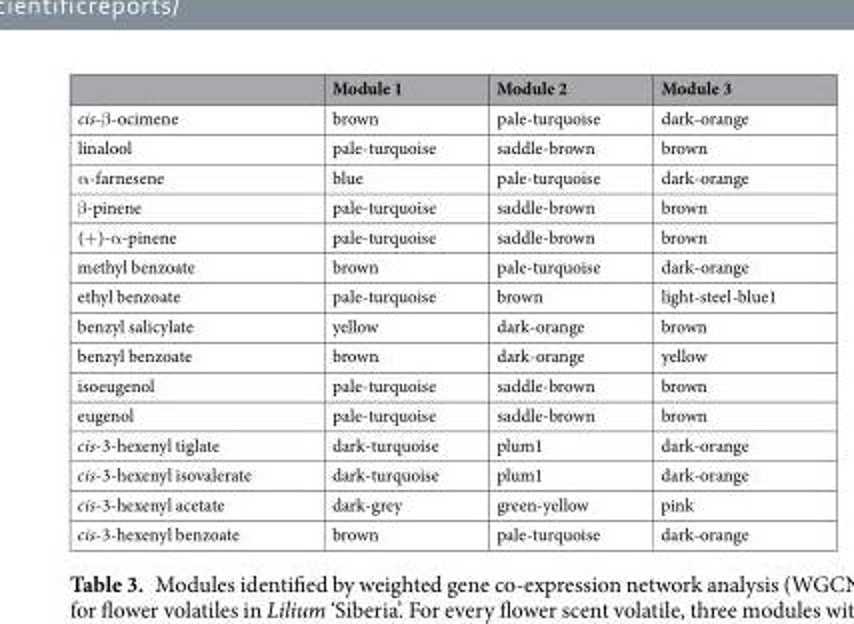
<table><thead><tr><td></td><td>Module 1</td><td>Module 2</td><td>Module 3</td></tr></thead><tbody><tr><td>cis-β-ocimene</td><td>brown</td><td>pale-turquoise</td><td>dark-orange</td></tr><tr><td>linalool</td><td>pale-turquoise</td><td>saddle-brown</td><td>brown</td></tr><tr><td>α-farnesene</td><td>blue</td><td>pale-turquoise</td><td>dark-orange</td></tr><tr><td>β-pinene</td><td>pale-turquoise</td><td>saddle-brown</td><td>brown</td></tr><tr><td>(+)-α-pinene</td><td>pale-turquoise</td><td>saddle-brown</td><td>brown</td></tr><tr><td>methyl benzoate</td><td>brown</td><td>pale-turquoise</td><td>dark-orange</td></tr><tr><td>ethyl benzoate</td><td>pale-turquoise</td><td>brown</td><td>light-steel-blue1</td></tr><tr><td>benzyl salicylate</td><td>yellow</td><td>dark-orange</td><td>brown</td></tr><tr><td>benzyl benzoate</td><td>brown</td><td>dark-orange</td><td>yellow</td></tr><tr><td>isoeugenol</td><td>pale-turquoise</td><td>saddle-brown</td><td>brown</td></tr><tr><td>eugenol</td><td>pale-turquoise</td><td>saddle-brown</td><td>brown</td></tr><tr><td>cis-3-hexenyl tiglate</td><td>dark-turquoise</td><td>plum1</td><td>dark-orange</td></tr><tr><td>cis-3-hexenyl isovalerate</td><td>dark-turquoise</td><td>plum1</td><td>dark-orange</td></tr><tr><td>cis-3-hexenyl acetate</td><td>dark-grey</td><td>green-yellow</td><td>pink</td></tr><tr><td>cis-3-hexenyl benzoate</td><td>brown</td><td>pale-turquoise</td><td>dark-orange</td></tr></tbody></table>